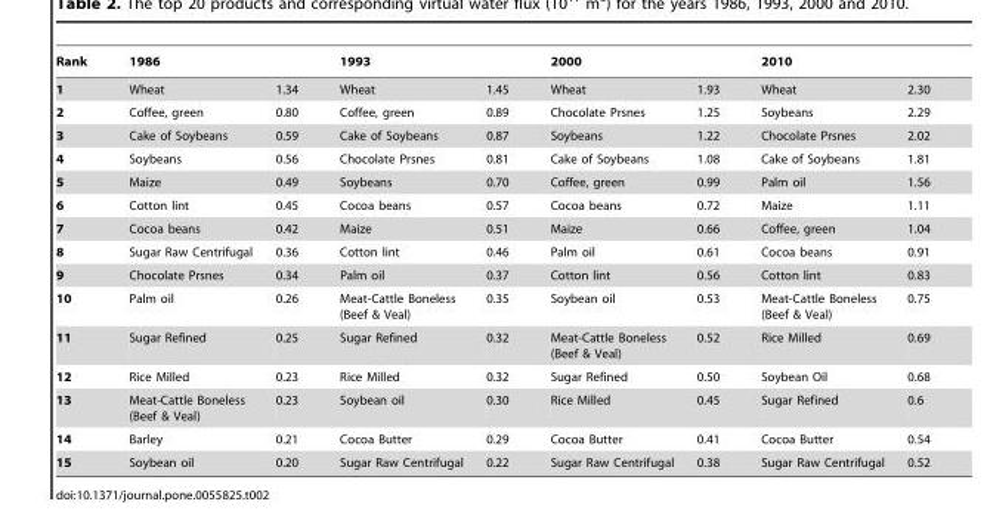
<table><thead><tr><td rowspan="2">Rank 1</td><td colspan="2">1986</td><td colspan="2">1993</td><td colspan="2">2000</td><td colspan="2">2010</td></tr><tr><td>Wheat</td><td>1.34</td><td>Wheat</td><td>1.45</td><td>Wheat</td><td>1.93</td><td>Wheat</td><td>2.30</td></tr></thead><tbody><tr><td>2</td><td>Coffee, green</td><td>0.80</td><td>Coffee, green</td><td>0.89</td><td>Chocolate Prsnes</td><td>1.25</td><td>Soybeans</td><td>2.29</td></tr><tr><td>3</td><td>Cake of Soybeans</td><td>0.59</td><td>Cake of Soybeans</td><td>0.87</td><td>Soybeans</td><td>1.22</td><td>Chocolate Prsnes</td><td>2.02</td></tr><tr><td>4</td><td>Soybeans</td><td>0.56</td><td>Chocolate Prsnes</td><td>0.81</td><td>Cake of Soybeans</td><td>1.08</td><td>Cake of Soybeans</td><td>1.81</td></tr><tr><td>5</td><td>Maize</td><td>0.49</td><td>Soybeans</td><td>0.70</td><td>Coffee, green</td><td>0.99</td><td>Palm oil</td><td>1.56</td></tr><tr><td>6</td><td>Cotton lint</td><td>0.45</td><td>Cocoa beans</td><td>0.57</td><td>Cocoa beans</td><td>0.72</td><td>Maize</td><td>1.11</td></tr><tr><td>7</td><td>Cocoa beans</td><td>0.42</td><td>Maize</td><td>0.51</td><td>Maize</td><td>0.66</td><td>Coffee, green</td><td>1.04</td></tr><tr><td>8</td><td>Sugar Raw Centrifugal</td><td>0.36</td><td>Cotton lint</td><td>0.46</td><td>Palm oil</td><td>0.61</td><td>Cocoa beans</td><td>0.91</td></tr><tr><td>9</td><td>Chocolate Prsnes</td><td>0.34</td><td>Palm oil</td><td>0.37</td><td>Cotton lint</td><td>0.56</td><td>Cotton lint</td><td>0.83</td></tr><tr><td>10</td><td>Palm oil</td><td>0.26</td><td>Meat-Cattle Boneless (Beef &amp; Veal)</td><td>0.35</td><td>Soybean oil</td><td>0.53</td><td>Meat-Cattle Boneless (Beef &amp; Veal)</td><td>0.75</td></tr><tr><td>11</td><td>Sugar Refined</td><td>0.25</td><td>Sugar Refined</td><td>0.32</td><td>Meat-Cattle Boneless (Beef &amp; Veal)</td><td>0.52</td><td>Rice Milled</td><td>0.69</td></tr><tr><td>12</td><td>Rice Milled</td><td>0.23</td><td>Rice Milled</td><td>0.32</td><td>Sugar Refined</td><td>0.50</td><td>Soybean Oil</td><td>0.68</td></tr><tr><td>13</td><td>Meat-Cattle Boneless (Beef &amp; Veal)</td><td>0.23</td><td>Soybean oil</td><td>0.30</td><td>Rice Milled</td><td>0.45</td><td>Sugar Refined</td><td>0.6</td></tr><tr><td>14</td><td>Barley</td><td>0.21</td><td>Cocoa Butter</td><td>0.29</td><td>Cocoa Butter</td><td>0.41</td><td>Cocoa Butter</td><td>0.54</td></tr><tr><td>15</td><td>Soybean oil</td><td>0.20</td><td>Sugar Raw Centrifugal</td><td>0.22</td><td>Sugar Raw Centrifugal</td><td>0.38</td><td>Sugar Raw Centrifugal</td><td>0.52</td></tr></tbody></table>